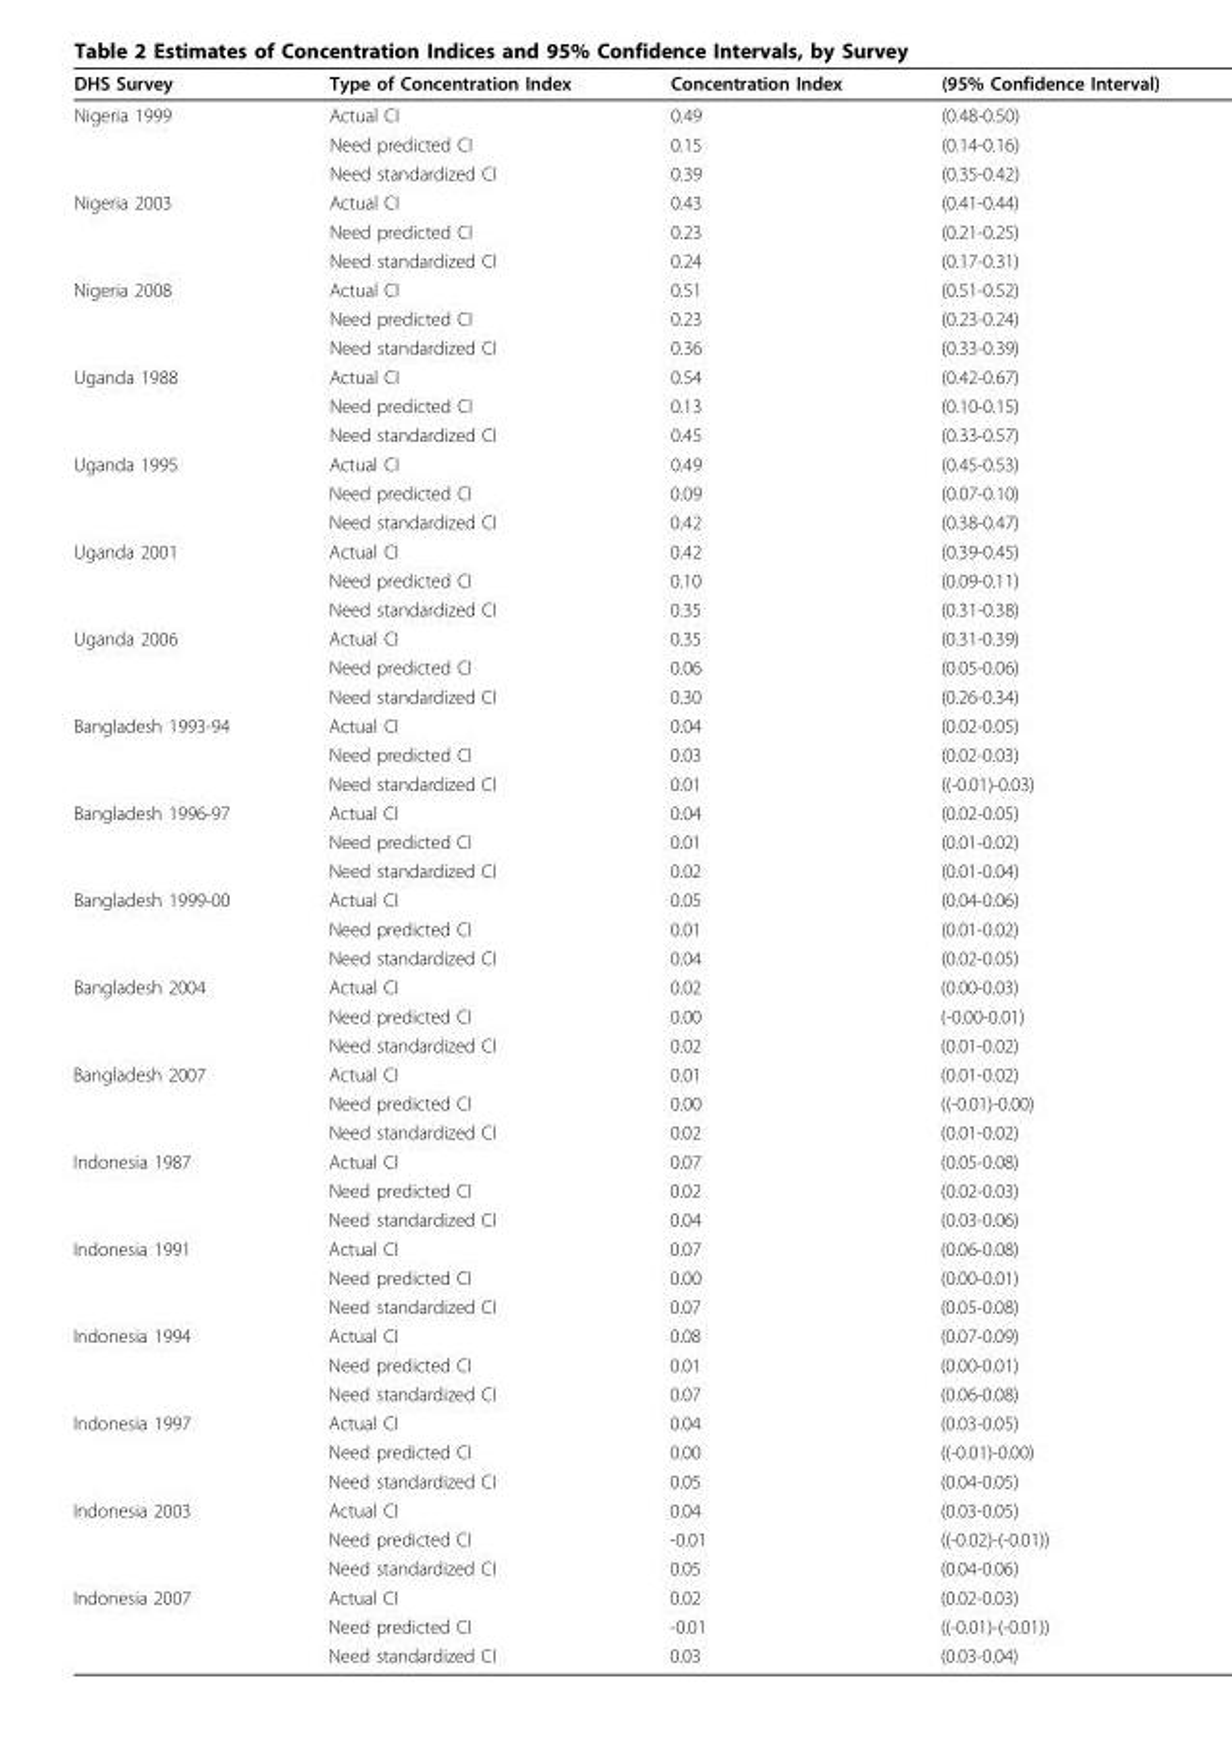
<table><thead><tr><td>DHS Survey</td><td>Type of Concentration Index</td><td>Concentration Index</td><td>(95% Confidence Interval)</td></tr></thead><tbody><tr><td rowspan="3">Nigeria 1999</td><td>Actual CI</td><td>0.49</td><td>(0.48-0.50)</td></tr><tr><td>Need predicted CI</td><td>0.15</td><td>(0.14-0.16)</td></tr><tr><td>Need standardized CI</td><td>0.39</td><td>(0.35-0.42)</td></tr><tr><td rowspan="3">Nigeria 2003</td><td>Actual CI</td><td>0.43</td><td>(0.41-0.44)</td></tr><tr><td>Need predicted CI</td><td>0.23</td><td>(0.21-0.25)</td></tr><tr><td>Need standardized CI</td><td>0.24</td><td>(0.17-0.31)</td></tr><tr><td rowspan="3">Nigeria 2008</td><td>Actual CI</td><td>0.51</td><td>(0.51-0.52)</td></tr><tr><td>Need predicted CI</td><td>0.23</td><td>(0.23-0.24)</td></tr><tr><td>Need standardized CI</td><td>0.36</td><td>(0.33-0.39)</td></tr><tr><td rowspan="3">Uganda 1988</td><td>Actual CI</td><td>0.54</td><td>(0.42-0.67)</td></tr><tr><td>Need predicted CI</td><td>0.13</td><td>(0.10-0.15)</td></tr><tr><td>Need standardized CI</td><td>0.45</td><td>(0.33-0.57)</td></tr><tr><td rowspan="3">Uganda 1995</td><td>Actual CI</td><td>0.49</td><td>(0.45-0.53)</td></tr><tr><td>Need predicted CI</td><td>0.09</td><td>(0.07-0.10)</td></tr><tr><td>Need standardized CI</td><td>0.42</td><td>(0.38-0.47)</td></tr><tr><td rowspan="3">Uganda 2001</td><td>Actual CI</td><td>0.42</td><td>(0.39-0.45)</td></tr><tr><td>Need predicted CI</td><td>0.10</td><td>(0.09-0.11)</td></tr><tr><td>Need standardized CI</td><td>0.35</td><td>(0.31-0.38)</td></tr><tr><td rowspan="3">Uganda 2006</td><td>Actual CI</td><td>0.35</td><td>(0.31-0.39)</td></tr><tr><td>Need predicted CI</td><td>0.06</td><td>(0.05-0.06)</td></tr><tr><td>Need standardized CI</td><td>0.30</td><td>(0.26-0.34)</td></tr><tr><td rowspan="3">Bangladesh 1993-94</td><td>Actual CI</td><td>0.04</td><td>(0.02-0.05)</td></tr><tr><td>Need predicted CI</td><td>0.03</td><td>(0.02-0.03)</td></tr><tr><td>Need standardized CI</td><td>0.01</td><td>((-0.01)-0.03)</td></tr><tr><td rowspan="3">Bangladesh 1996-97</td><td>Actual CI</td><td>0.04</td><td>(0.02-0.05)</td></tr><tr><td>Need predicted CI</td><td>0.01</td><td>(0.01-0.02)</td></tr><tr><td>Need standardized CI</td><td>0.02</td><td>(0.01-0.04)</td></tr><tr><td rowspan="3">Bangladesh 1999-00</td><td>Actual CI</td><td>0.05</td><td>(0.04-0.06)</td></tr><tr><td>Need predicted CI</td><td>0.01</td><td>(0.01-0.02)</td></tr><tr><td>Need standardized CI</td><td>0.04</td><td>(0.02-0.05)</td></tr><tr><td rowspan="3">Bangladesh 2004</td><td>Actual CI</td><td>0.02</td><td>(0.00-0.03)</td></tr><tr><td>Need predicted CI</td><td>0.00</td><td>(-0.00-0.01)</td></tr><tr><td>Need standardized CI</td><td>0.02</td><td>(0.01-0.02)</td></tr><tr><td rowspan="3">Bangladesh 2007</td><td>Actual CI</td><td>0.01</td><td>(0.01-0.02)</td></tr><tr><td>Need predicted CI</td><td>0.00</td><td>((-0.01)-0.00)</td></tr><tr><td>Need standardized CI</td><td>0.02</td><td>(0.01-0.02)</td></tr><tr><td rowspan="3">Indonesia 1987</td><td>Actual CI</td><td>0.07</td><td>(0.05-0.08)</td></tr><tr><td>Need predicted CI</td><td>0.02</td><td>(0.02-0.03)</td></tr><tr><td>Need standardized CI</td><td>0.04</td><td>(0.03-0.06)</td></tr><tr><td rowspan="3">Indonesia 1991</td><td>Actual CI</td><td>0.07</td><td>(0.06-0.08)</td></tr><tr><td>Need predicted CI</td><td>0.00</td><td>(0.00-0.01)</td></tr><tr><td>Need standardized CI</td><td>0.07</td><td>(0.05-0.08)</td></tr><tr><td rowspan="3">Indonesia 1994</td><td>Actual CI</td><td>0.08</td><td>(0.07-0.09)</td></tr><tr><td>Need predicted CI</td><td>0.01</td><td>(0.00-0.01)</td></tr><tr><td>Need standardized CI</td><td>0.07</td><td>(0.06-0.08)</td></tr><tr><td rowspan="3">Indonesia 1997</td><td>Actual CI</td><td>0.04</td><td>(0.03-0.05)</td></tr><tr><td>Need predicted CI</td><td>0.00</td><td>((-0.01)-0.00)</td></tr><tr><td>Need standardized CI</td><td>0.05</td><td>(0.04-0.05)</td></tr><tr><td rowspan="3">Indonesia 2003</td><td>Actual CI</td><td>0.04</td><td>(0.03-0.05)</td></tr><tr><td>Need predicted CI</td><td>-0.01</td><td>((-0.02)-(-0.01))</td></tr><tr><td>Need standardized CI</td><td>0.05</td><td>(0.04-0.06)</td></tr><tr><td rowspan="3">Indonesia 2007</td><td>Actual CI</td><td>0.02</td><td>(0.02-0.03)</td></tr><tr><td>Need predicted CI</td><td>-0.01</td><td>((-0.01)-(-0.01))</td></tr><tr><td>Need standardized CI</td><td>0.03</td><td>(0.03-0.04)</td></tr></tbody></table>